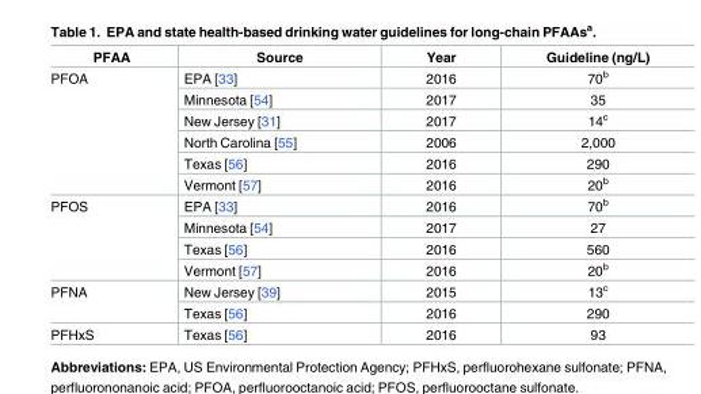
<table><thead><tr><td>PFAA</td><td>Source</td><td>Year</td><td>Guideline (ng/L)</td></tr></thead><tbody><tr><td rowspan="6">PFOA</td><td>EPA [33]</td><td>2016</td><td>70<sup>b</sup></td></tr><tr><td>Minnesota [54]</td><td>2017</td><td>35</td></tr><tr><td>New Jersey [31]</td><td>2017</td><td>14<sup>c</sup></td></tr><tr><td>North Carolina [55]</td><td>2006</td><td>2,000</td></tr><tr><td>Texas [56]</td><td>2016</td><td>290</td></tr><tr><td>Vermont [57]</td><td>2016</td><td>20<sup>b</sup></td></tr><tr><td rowspan="4">PFOS</td><td>EPA [33]</td><td>2016</td><td>70<sup>b</sup></td></tr><tr><td>Minnesota [54]</td><td>2017</td><td>27</td></tr><tr><td>Texas [56]</td><td>2016</td><td>560</td></tr><tr><td>Vermont [57]</td><td>2016</td><td>20<sup>b</sup></td></tr><tr><td rowspan="2">PFNA</td><td>New Jersey [39]</td><td>2015</td><td>13<sup>c</sup></td></tr><tr><td>Texas [56]</td><td>2016</td><td>290</td></tr><tr><td>PFHxS</td><td>Texas [56]</td><td>2016</td><td>93</td></tr></tbody></table>